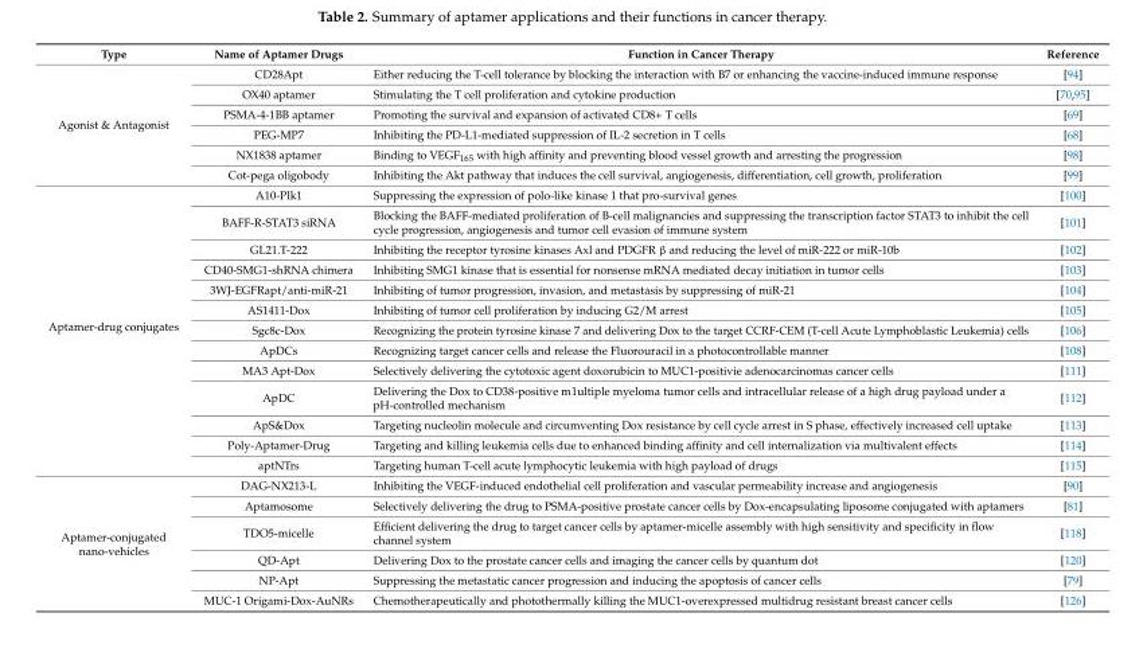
<table><thead><tr><td>Type</td><td>Name of Aptamer Drugs</td><td>Function in Cancer Therapy</td><td>Reference</td></tr></thead><tbody><tr><td rowspan="6">Agonist &amp; Antagonist</td><td>CD28Apt</td><td>Either reducing the T-cell tolerance by blocking the interaction with B7 or enhancing the vaccine-induced immune response</td><td>[94]</td></tr><tr><td>OX40 aptamer</td><td>Stimulating the T cell proliferation and cytokine production</td><td>[70,95]</td></tr><tr><td>PSMA-4-1BB aptamer</td><td>Promoting the survival and expansion of activated CD8+ T cells</td><td>[69]</td></tr><tr><td>PEG-MP7</td><td>Inhibiting the PD-L1-mediated suppression of IL-2 secretion in T cells</td><td>[68]</td></tr><tr><td>NX1838 aptamer</td><td>Binding to VEGF<sub>165</sub> with high affinity and preventing blood vessel growth and arresting the progression</td><td>[98]</td></tr><tr><td>Cot-pega oligobody</td><td>Inhibiting the Akt pathway that induces the cell survival, angiogenesis, differentiation, cell growth, proliferation</td><td>[99]</td></tr><tr><td rowspan="13">Aptamer-drug conjugates</td><td>A10-Plk1</td><td>Suppressing the expression of polo-like kinase 1 that pro-survival genes</td><td>[100]</td></tr><tr><td>BAFF-R-STAT3 siRNA</td><td>Blocking the BAFF-mediated proliferation of B-cell malignancies and suppressing the transcription factor STAT3 to inhibit the cell cycle progression, angiogenesis and tumor cell evasion of immune system</td><td>[101]</td></tr><tr><td>GL21.T-222</td><td>Inhibiting the receptor tyrosine kinases Axl and PDGFR β and reducing the level of miR-222 or miR-10b</td><td>[102]</td></tr><tr><td>CD40-SMG1-shRNA chimera</td><td>Inhibiting SMG1 kinase that is essential for nonsense mRNA mediated decay initiation in tumor cells</td><td>[103]</td></tr><tr><td>3WJ-EGFRapt/anti-miR-21</td><td>Inhibiting of tumor progression, invasion, and metastasis by suppressing of miR-21</td><td>[104]</td></tr><tr><td>AS1411-Dox</td><td>Inhibiting of tumor cell proliferation by inducing G2/M arrest</td><td>[105]</td></tr><tr><td>Sgc8c-Dox</td><td>Recognizing the protein tyrosine kinase 7 and delivering Dox to the target CCRF-CEM (T-cell Acute Lymphoblastic Leukemia) cells</td><td>[106]</td></tr><tr><td>ApDCs</td><td>Recognizing target cancer cells and release the Fluorouracil in a photocontrollable manner</td><td>[108]</td></tr><tr><td>MA3 Apt-Dox</td><td>Selectively delivering the cytotoxic agent doxorubicin to MUC1-positivie adenocarcinomas cancer cells</td><td>[111]</td></tr><tr><td>ApDC</td><td>Delivering the Dox to CD38-positive m1ultiple myeloma tumor cells and intracellular release of a high drug payload under a pH-controlled mechanism</td><td>[112]</td></tr><tr><td>ApS&amp;Dox</td><td>Targeting nucleolin molecule and circumventing Dox resistance by cell cycle arrest in S phase, effectively increased cell uptake</td><td>[113]</td></tr><tr><td>Poly-Aptamer-Drug</td><td>Targeting and killing leukemia cells due to enhanced binding affinity and cell internalization via multivalent effects</td><td>[114]</td></tr><tr><td>aptNTrs</td><td>Targeting human T-cell acute lymphocytic leukemia with high payload of drugs</td><td>[115]</td></tr><tr><td rowspan="6">Aptamer-conjugated nano-vehicles</td><td>DAG-NX213-L</td><td>Inhibiting the VEGF-induced endothelial cell proliferation and vascular permeability increase and angiogenesis</td><td>[90]</td></tr><tr><td>Aptamosome</td><td>Selectively delivering the drug to PSMA-positive prostate cancer cells by Dox-encapsulating liposome conjugated with aptamers</td><td>[81]</td></tr><tr><td>TDO5-micelle</td><td>Efficient delivering the drug to target cancer cells by aptamer-micelle assembly with high sensitivity and specificity in flow channel system</td><td>[118]</td></tr><tr><td>QD-Apt</td><td>Delivering Dox to the prostate cancer cells and imaging the cancer cells by quantum dot</td><td>[120]</td></tr><tr><td>NP-Apt</td><td>Suppressing the metastatic cancer progression and inducing the apoptosis of cancer cells</td><td>[79]</td></tr><tr><td>MUC-1 Origami-Dox-AuNRs</td><td>Chemotherapeutically and photothermally killing the MUC1-overexpressed multidrug resistant breast cancer cells</td><td>[126]</td></tr></tbody></table>